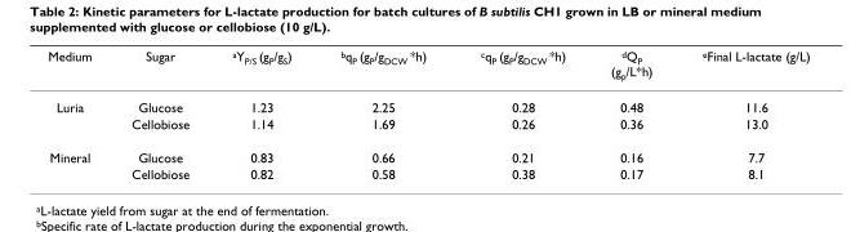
<table><thead><tr><td>Medium</td><td>Sugar</td><td><sup>a</sup>Y<sub>P/S</sub> (g<sub>P</sub>/g<sub>S</sub>)</td><td><sup>b</sup>q<sub>P</sub> (g<sub>P</sub>/g<sub>DCW</sub> *h)</td><td><sup>c</sup>q<sub>P</sub> (g<sub>P</sub>/g<sub>DCW</sub> *h)</td><td><sup>d</sup>Q<sub>P</sub> (g<sub>p</sub>/L*h)</td><td><sup>e</sup>Final L-lactate (g/L)</td></tr></thead><tbody><tr><td rowspan="2">Luria</td><td>Glucose</td><td>1.23</td><td>2.25</td><td>0.28</td><td>0.48</td><td>11.6</td></tr><tr><td>Cellobiose</td><td>1.14</td><td>1.69</td><td>0.26</td><td>0.36</td><td>13.0</td></tr><tr><td rowspan="2">Mineral</td><td>Glucose</td><td>0.83</td><td>0.66</td><td>0.21</td><td>0.16</td><td>7.7</td></tr><tr><td>Cellobiose</td><td>0.82</td><td>0.58</td><td>0.38</td><td>0.17</td><td>8.1</td></tr></tbody></table>